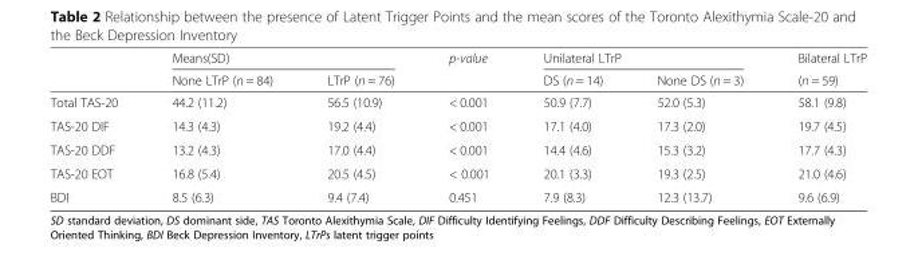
<table><thead><tr><td rowspan="2"></td><td colspan="2">Means(SD)</td><td rowspan="2">p-value</td><td colspan="2">Unilateral LTrP</td><td rowspan="2">Bilateral LTrP (n = 59)</td></tr><tr><td>None LTrP (n = 84)</td><td>LTrP (n = 76)</td><td>DS (n = 14)</td><td>None DS (n = 3)</td></tr></thead><tbody><tr><td>Total TAS-20</td><td>44.2 (11.2)</td><td>56.5 (10.9)</td><td>&lt; 0.001</td><td>50.9 (7.7)</td><td>52.0 (5.3)</td><td>58.1 (9.8)</td></tr><tr><td>TAS-20 DIF</td><td>14.3 (4.3)</td><td>19.2 (4.4)</td><td>&lt; 0.001</td><td>17.1 (4.0)</td><td>17.3 (2.0)</td><td>19.7 (4.5)</td></tr><tr><td>TAS-20 DDF</td><td>13.2 (4.3)</td><td>17.0 (4.4)</td><td>&lt; 0.001</td><td>14.4 (4.6)</td><td>15.3 (3.2)</td><td>17.7 (4.3)</td></tr><tr><td>TAS-20 EOT</td><td>16.8 (5.4)</td><td>20.5 (4.5)</td><td>&lt; 0.001</td><td>20.1 (3.3)</td><td>19.3 (2.5)</td><td>21.0 (4.6)</td></tr><tr><td>BDI</td><td>8.5 (6.3)</td><td>9.4 (7.4)</td><td>0.451</td><td>7.9 (8.3)</td><td>12.3 (13.7)</td><td>9.6 (6.9)</td></tr></tbody></table>